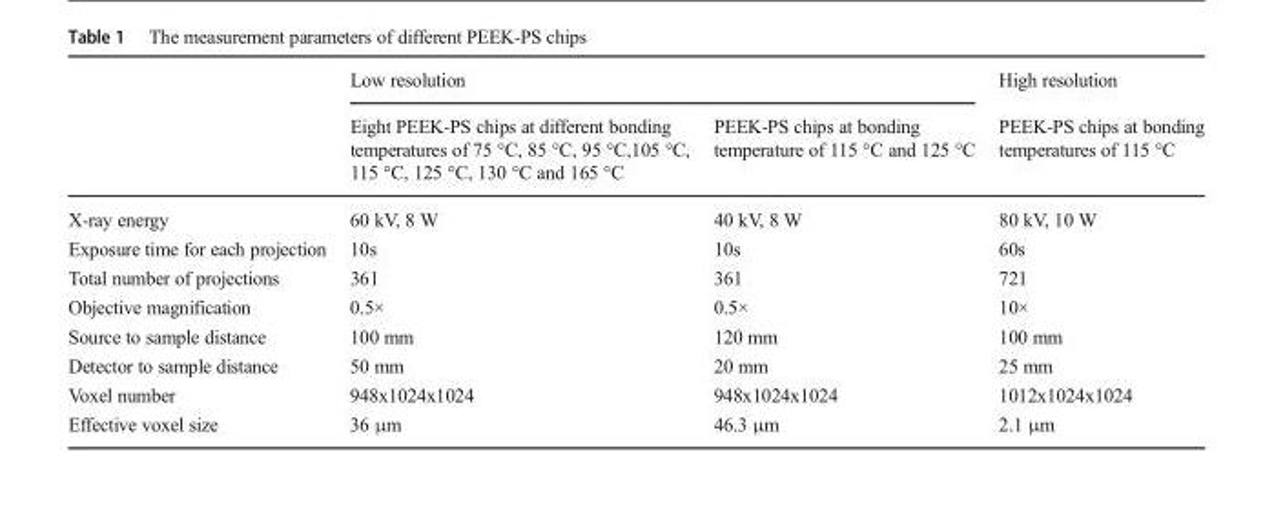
<table><thead><tr><td rowspan="2"></td><td colspan="2">Low resolution</td><td rowspan="2">High resolution PEEK-PS chips at bonding temperatures of 115 °C</td></tr><tr><td>Eight PEEK-PS chips at different bonding temperatures of 75 °C, 85 °C, 95 °C,105 °C, 115 °C, 125 °C, 130 °C and 165 °C</td><td>PEEK-PS chips at bonding temperature of 115 °C and 125 °C</td></tr></thead><tbody><tr><td>X-ray energy</td><td>60 kV, 8 W</td><td>40 kV, 8 W</td><td>80 kV, 10 W</td></tr><tr><td>Exposure time for each projection</td><td>10s</td><td>10s</td><td>60s</td></tr><tr><td>Total number of projections</td><td>361</td><td>361</td><td>721</td></tr><tr><td>Objective magnification</td><td>0.5×</td><td>0.5×</td><td>10×</td></tr><tr><td>Source to sample distance</td><td>100 mm</td><td>120 mm</td><td>100 mm</td></tr><tr><td>Detector to sample distance</td><td>50 mm</td><td>20 mm</td><td>25 mm</td></tr><tr><td>Voxel number</td><td>948x1024x1024</td><td>948x1024x1024</td><td>1012x1024x1024</td></tr><tr><td>Effective voxel size</td><td>36 μm</td><td>46.3 μm</td><td>2.1 μm</td></tr></tbody></table>